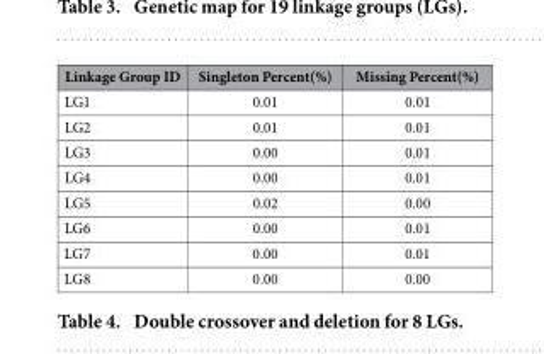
<table><thead><tr><td>Linkage Group ID</td><td>Singleton Percent(%)</td><td>Missing Percent(%)</td></tr></thead><tbody><tr><td>LG1</td><td>0.01</td><td>0.01</td></tr><tr><td>LG2</td><td>0.01</td><td>0.01</td></tr><tr><td>LG3</td><td>0.00</td><td>0.01</td></tr><tr><td>LG4</td><td>0.00</td><td>0.01</td></tr><tr><td>LG5</td><td>0.02</td><td>0.00</td></tr><tr><td>LG6</td><td>0.00</td><td>0.01</td></tr><tr><td>LG7</td><td>0.00</td><td>0.01</td></tr><tr><td>LG8</td><td>0.00</td><td>0.00</td></tr></tbody></table>